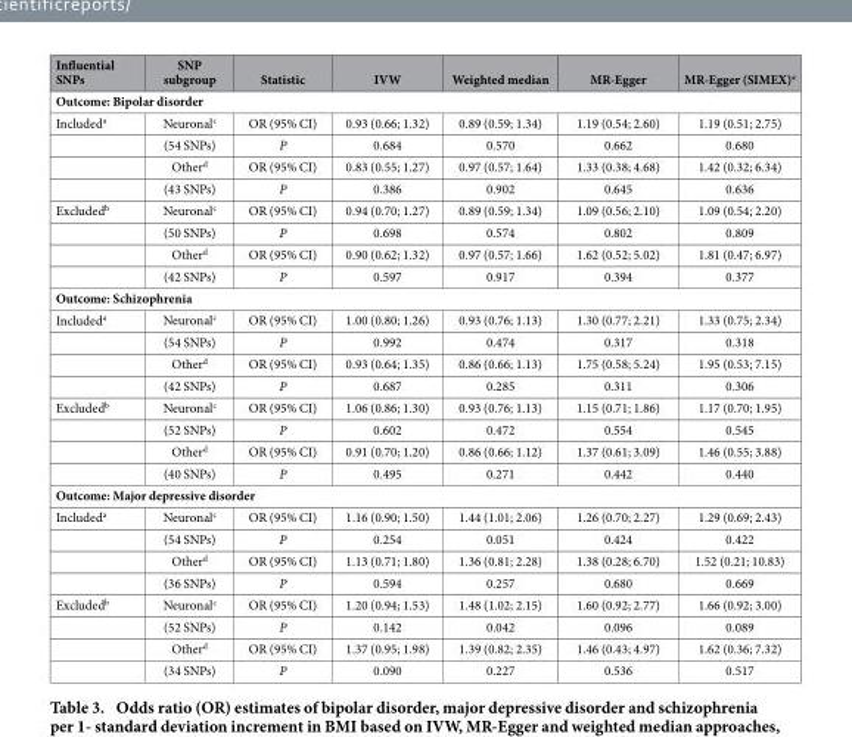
<table><thead><tr><td>Influential SNPs</td><td>SNP subgroup</td><td>Statistic</td><td>IVW</td><td>Weighted median</td><td>MR-Egger</td><td>MR-Egger (SIMEX)<sup>e</sup></td></tr></thead><tbody><tr><td colspan="7">Outcome: Bipolar disorder</td></tr><tr><td rowspan="4">Included<sup>a</sup></td><td>Neuronal<sup>c</sup></td><td>OR (95% CI)</td><td>0.93 (0.66; 1.32)</td><td>0.89 (0.59; 1.34)</td><td>1.19 (0.54; 2.60)</td><td>1.19 (0.51; 2.75)</td></tr><tr><td>(54 SNPs)</td><td>P</td><td>0.684</td><td>0.570</td><td>0.662</td><td>0.680</td></tr><tr><td>Other<sup>d</sup></td><td>OR (95% CI)</td><td>0.83 (0.55; 1.27)</td><td>0.97 (0.57; 1.64)</td><td>1.33 (0.38; 4.68)</td><td>1.42 (0.32; 6.34)</td></tr><tr><td>(43 SNPs)</td><td>P</td><td>0.386</td><td>0.902</td><td>0.645</td><td>0.636</td></tr><tr><td rowspan="4">Excluded<sup>b</sup></td><td>Neuronal<sup>c</sup></td><td>OR (95% CI)</td><td>0.94 (0.70; 1.27)</td><td>0.89 (0.59; 1.34)</td><td>1.09 (0.56; 2.10)</td><td>1.09 (0.54; 2.20)</td></tr><tr><td>(50 SNPs)</td><td>P</td><td>0.698</td><td>0.574</td><td>0.802</td><td>0.809</td></tr><tr><td>Other<sup>d</sup></td><td>OR (95% CI)</td><td>0.90 (0.62; 1.32)</td><td>0.97 (0.57; 1.66)</td><td>1.62 (0.52; 5.02)</td><td>1.81 (0.47; 6.97)</td></tr><tr><td>(42 SNPs)</td><td>P</td><td>0.597</td><td>0.917</td><td>0.394</td><td>0.377</td></tr><tr><td colspan="7">Outcome: Schizophrenia</td></tr><tr><td rowspan="4">Included<sup>a</sup></td><td>Neuronal<sup>c</sup></td><td>OR (95% CI)</td><td>1.00 (0.80; 1.26)</td><td>0.93 (0.76; 1.13)</td><td>1.30 (0.77; 2.21)</td><td>1.33 (0.75; 2.34)</td></tr><tr><td>(54 SNPs)</td><td>P</td><td>0.992</td><td>0.474</td><td>0.317</td><td>0.318</td></tr><tr><td>Other<sup>d</sup></td><td>OR (95% CI)</td><td>0.93 (0.64; 1.35)</td><td>0.86 (0.66; 1.13)</td><td>1.75 (0.58; 5.24)</td><td>1.95 (0.53; 7.15)</td></tr><tr><td>(42 SNPs)</td><td>P</td><td>0.687</td><td>0.285</td><td>0.311</td><td>0.306</td></tr><tr><td rowspan="4">Excluded<sup>b</sup></td><td>Neuronal<sup>c</sup></td><td>OR (95% CI)</td><td>1.06 (0.86; 1.30)</td><td>0.93 (0.76; 1.13)</td><td>1.15 (0.71; 1.86)</td><td>1.17 (0.70; 1.95)</td></tr><tr><td>(52 SNPs)</td><td>P</td><td>0.602</td><td>0.472</td><td>0.554</td><td>0.545</td></tr><tr><td>Other<sup>d</sup></td><td>OR (95% CI)</td><td>0.91 (0.70; 1.20)</td><td>0.86 (0.66; 1.12)</td><td>1.37 (0.61; 3.09)</td><td>1.46 (0.55; 3.88)</td></tr><tr><td>(40 SNPs)</td><td>P</td><td>0.495</td><td>0.271</td><td>0.442</td><td>0.440</td></tr><tr><td colspan="7">Outcome: Major depressive disorder</td></tr><tr><td rowspan="4">Included<sup>a</sup></td><td>Neuronal<sup>c</sup></td><td>OR (95% CI)</td><td>1.16 (0.90; 1.50)</td><td>1.44 (1.01; 2.06)</td><td>1.26 (0.70; 2.27)</td><td>1.29 (0.69; 2.43)</td></tr><tr><td>(54 SNPs)</td><td>P</td><td>0.254</td><td>0.051</td><td>0.424</td><td>0.422</td></tr><tr><td>Other<sup>d</sup></td><td>OR (95% CI)</td><td>1.13 (0.71; 1.80)</td><td>1.36 (0.81; 2.28)</td><td>1.38 (0.28; 6.70)</td><td>1.52 (0.21; 10.83)</td></tr><tr><td>(36 SNPs)</td><td>P</td><td>0.594</td><td>0.257</td><td>0.680</td><td>0.669</td></tr><tr><td rowspan="4">Excluded<sup>b</sup></td><td>Neuronal<sup>c</sup></td><td>OR (95% CI)</td><td>1.20 (0.94; 1.53)</td><td>1.48 (1.02; 2.15)</td><td>1.60 (0.92; 2.77)</td><td>1.66 (0.92; 3.00)</td></tr><tr><td>(52 SNPs)</td><td>P</td><td>0.142</td><td>0.042</td><td>0.096</td><td>0.089</td></tr><tr><td>Other<sup>d</sup></td><td>OR (95% CI)</td><td>1.37 (0.95; 1.98)</td><td>1.39 (0.82; 2.35)</td><td>1.46 (0.43; 4.97)</td><td>1.62 (0.36; 7.32)</td></tr><tr><td>(34 SNPs)</td><td>P</td><td>0.090</td><td>0.227</td><td>0.536</td><td>0.517</td></tr></tbody></table>